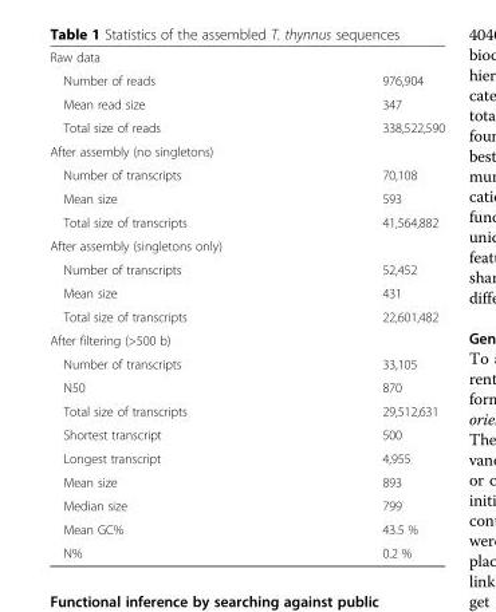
<table><tbody><tr><td colspan="2">Raw data</td></tr><tr><td>Number of reads</td><td>976,904</td></tr><tr><td>Mean read size</td><td>347</td></tr><tr><td>Total size of reads</td><td>338,522,590</td></tr><tr><td colspan="2">After assembly (no singletons)</td></tr><tr><td>Number of transcripts</td><td>70,108</td></tr><tr><td>Mean size</td><td>593</td></tr><tr><td>Total size of transcripts</td><td>41,564,882</td></tr><tr><td colspan="2">After assembly (singletons only)</td></tr><tr><td>Number of transcripts</td><td>52,452</td></tr><tr><td>Mean size</td><td>431</td></tr><tr><td>Total size of transcripts</td><td>22,601,482</td></tr><tr><td colspan="2">After filtering (&gt;500 b)</td></tr><tr><td>Number of transcripts</td><td>33,105</td></tr><tr><td>N50</td><td>870</td></tr><tr><td>Total size of transcripts</td><td>29,512,631</td></tr><tr><td>Shortest transcript</td><td>500</td></tr><tr><td>Longest transcript</td><td>4,955</td></tr><tr><td>Mean size</td><td>893</td></tr><tr><td>Median size</td><td>799</td></tr><tr><td>Mean GC%</td><td>43.5 %</td></tr><tr><td>N%</td><td>0.2 %</td></tr></tbody></table>